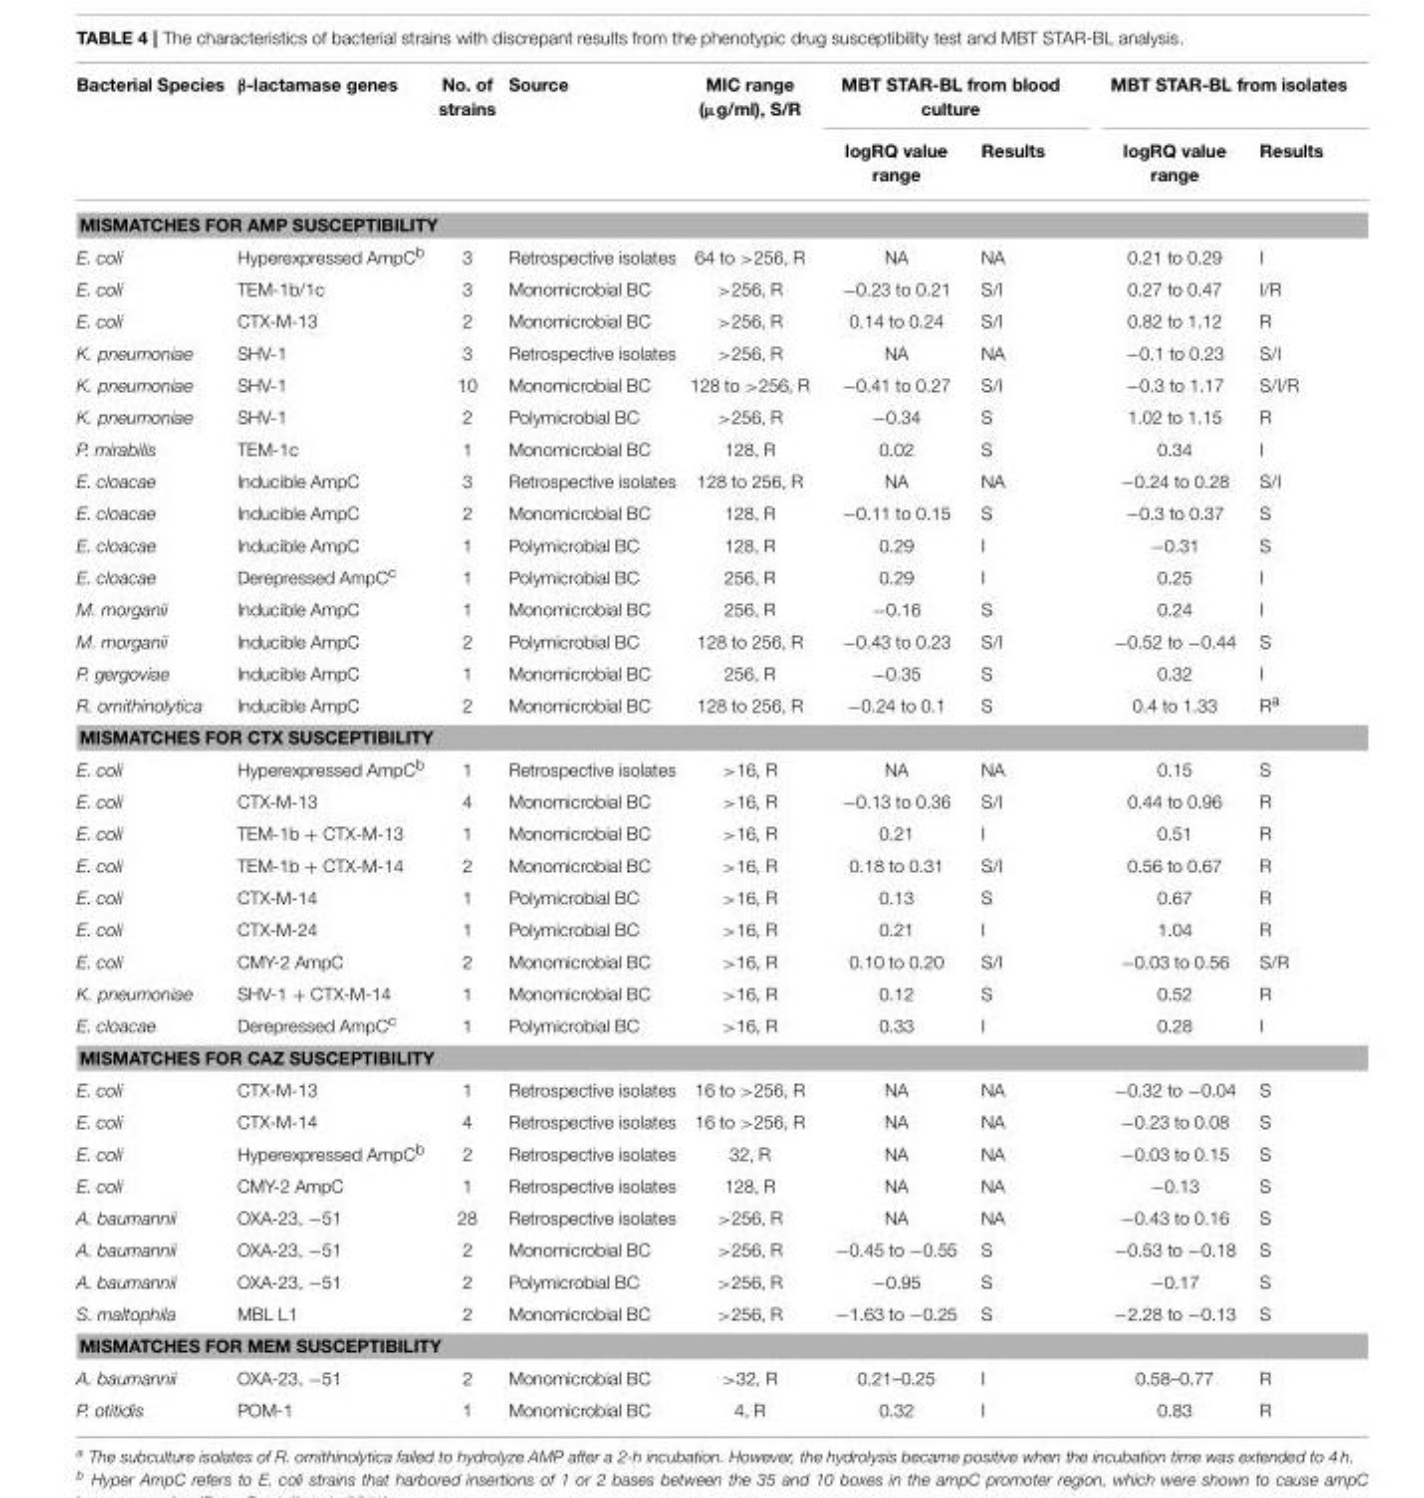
<table><thead><tr><td rowspan="2">Bacterial Species</td><td rowspan="2">β-lactamase genes</td><td rowspan="2">No. of strains</td><td rowspan="2">Source</td><td rowspan="2">MIC range (µg/ml), S/R</td><td colspan="2">MBT STAR-BL from blood culture</td><td colspan="2">MBT STAR-BL from isolates</td></tr><tr><td>logRQ value range</td><td>Results</td><td>logRQ value range</td><td>Results</td></tr></thead><tbody><tr><td colspan="9">MISMATCHES FOR AMP SUSCEPTIBILITY</td></tr><tr><td>E. coli</td><td>Hyperexpressed AmpC<sup>b</sup></td><td>3</td><td>Retrospective isolates</td><td>64 to &gt;256, R</td><td>NA</td><td>NA</td><td>0.21 to 0.29</td><td>I</td></tr><tr><td>E. coli</td><td>TEM-1b/1c</td><td>3</td><td>Monomicrobial BC</td><td>&gt;256, R</td><td>−0.23 to 0.21</td><td>S/I</td><td>0.27 to 0.47</td><td>I/R</td></tr><tr><td>E. coli</td><td>CTX-M-13</td><td>2</td><td>Monomicrobial BC</td><td>&gt;256, R</td><td>0.14 to 0.24</td><td>S/I</td><td>0.82 to 1.12</td><td>R</td></tr><tr><td>K. pneumoniae</td><td>SHV-1</td><td>3</td><td>Retrospective isolates</td><td>&gt;256, R</td><td>NA</td><td>NA</td><td>−0.1 to 0.23</td><td>S/I</td></tr><tr><td>K. pneumoniae</td><td>SHV-1</td><td>10</td><td>Monomicrobial BC</td><td>128 to &gt;256, R</td><td>−0.41 to 0.27</td><td>S/I</td><td>−0.3 to 1.17</td><td>S/I/R</td></tr><tr><td>K. pneumoniae</td><td>SHV-1</td><td>2</td><td>Polymicrobial BC</td><td>&gt;256, R</td><td>−0.34</td><td>S</td><td>1.02 to 1.15</td><td>R</td></tr><tr><td>P. mirabilis</td><td>TEM-1c</td><td>1</td><td>Monomicrobial BC</td><td>128, R</td><td>0.02</td><td>S</td><td>0.34</td><td>I</td></tr><tr><td>E. cloacae</td><td>Inducible AmpC</td><td>3</td><td>Retrospective isolates</td><td>128 to 256, R</td><td>NA</td><td>NA</td><td>−0.24 to 0.28</td><td>S/I</td></tr><tr><td>E. cloacae</td><td>Inducible AmpC</td><td>2</td><td>Monomicrobial BC</td><td>128, R</td><td>−0.11 to 0.15</td><td>S</td><td>−0.3 to 0.37</td><td>S</td></tr><tr><td>E. cloacae</td><td>Inducible AmpC</td><td>1</td><td>Polymicrobial BC</td><td>128, R</td><td>0.29</td><td>I</td><td>−0.31</td><td>S</td></tr><tr><td>E. cloacae</td><td>Derepressed AmpC<sup>c</sup></td><td>1</td><td>Polymicrobial BC</td><td>256, R</td><td>0.29</td><td>I</td><td>0.25</td><td>I</td></tr><tr><td>M. morganii</td><td>Inducible AmpC</td><td>1</td><td>Monomicrobial BC</td><td>256, R</td><td>−0.16</td><td>S</td><td>0.24</td><td>I</td></tr><tr><td>M. morganii</td><td>Inducible AmpC</td><td>2</td><td>Polymicrobial BC</td><td>128 to 256, R</td><td>−0.43 to 0.23</td><td>S/I</td><td>−0.52 to −0.44</td><td>S</td></tr><tr><td>P. gergoviae</td><td>Inducible AmpC</td><td>1</td><td>Monomicrobial BC</td><td>256, R</td><td>−0.35</td><td>S</td><td>0.32</td><td>I</td></tr><tr><td>R. ornithinolytica</td><td>Inducible AmpC</td><td>2</td><td>Monomicrobial BC</td><td>128 to 256, R</td><td>−0.24 to 0.1</td><td>S</td><td>0.4 to 1.33</td><td>R<sup>a</sup></td></tr><tr><td colspan="9">MISMATCHES FOR CTX SUSCEPTIBILITY</td></tr><tr><td>E. coli</td><td>Hyperexpressed AmpC<sup>b</sup></td><td>1</td><td>Retrospective isolates</td><td>&gt;16, R</td><td>NA</td><td>NA</td><td>0.15</td><td>S</td></tr><tr><td>E. coli</td><td>CTX-M-13</td><td>4</td><td>Monomicrobial BC</td><td>&gt;16, R</td><td>−0.13 to 0.36</td><td>S/I</td><td>0.44 to 0.96</td><td>R</td></tr><tr><td>E. coli</td><td>TEM-1b + CTX-M-13</td><td>1</td><td>Monomicrobial BC</td><td>&gt;16, R</td><td>0.21</td><td>I</td><td>0.51</td><td>R</td></tr><tr><td>E. coli</td><td>TEM-1b + CTX-M-14</td><td>2</td><td>Monomicrobial BC</td><td>&gt;16, R</td><td>0.18 to 0.31</td><td>S/I</td><td>0.56 to 0.67</td><td>R</td></tr><tr><td>E. coli</td><td>CTX-M-14</td><td>1</td><td>Polymicrobial BC</td><td>&gt;16, R</td><td>0.13</td><td>S</td><td>0.67</td><td>R</td></tr><tr><td>E. coli</td><td>CTX-M-24</td><td>1</td><td>Polymicrobial BC</td><td>&gt;16, R</td><td>0.21</td><td>I</td><td>1.04</td><td>R</td></tr><tr><td>E. coli</td><td>CMY-2 AmpC</td><td>2</td><td>Monomicrobial BC</td><td>&gt;16, R</td><td>0.10 to 0.20</td><td>S/I</td><td>−0.03 to 0.56</td><td>S/R</td></tr><tr><td>K. pneumoniae</td><td>SHV-1 + CTX-M-14</td><td>1</td><td>Monomicrobial BC</td><td>&gt;16, R</td><td>0.12</td><td>S</td><td>0.52</td><td>R</td></tr><tr><td>E. cloacae</td><td>Derepressed AmpC<sup>c</sup></td><td>1</td><td>Polymicrobial BC</td><td>&gt;16, R</td><td>0.33</td><td>I</td><td>0.28</td><td>I</td></tr><tr><td colspan="9">MISMATCHES FOR CAZ SUSCEPTIBILITY</td></tr><tr><td>E. coli</td><td>CTX-M-13</td><td>1</td><td>Retrospective isolates</td><td>16 to &gt;256, R</td><td>NA</td><td>NA</td><td>−0.32 to −0.04</td><td>S</td></tr><tr><td>E. coli</td><td>CTX-M-14</td><td>4</td><td>Retrospective isolates</td><td>16 to &gt;256, R</td><td>NA</td><td>NA</td><td>−0.23 to 0.08</td><td>S</td></tr><tr><td>E. coli</td><td>Hyperexpressed AmpC<sup>b</sup></td><td>2</td><td>Retrospective isolates</td><td>32, R</td><td>NA</td><td>NA</td><td>−0.03 to 0.15</td><td>S</td></tr><tr><td>E. coli</td><td>CMY-2 AmpC</td><td>1</td><td>Retrospective isolates</td><td>128, R</td><td>NA</td><td>NA</td><td>−0.13</td><td>S</td></tr><tr><td>A. baumannii</td><td>OXA-23, −51</td><td>28</td><td>Retrospective isolates</td><td>&gt;256, R</td><td>NA</td><td>NA</td><td>−0.43 to 0.16</td><td>S</td></tr><tr><td>A. baumannii</td><td>OXA-23, −51</td><td>2</td><td>Monomicrobial BC</td><td>&gt;256, R</td><td>−0.45 to −0.55</td><td>S</td><td>−0.53 to −0.18</td><td>S</td></tr><tr><td>A. baumannii</td><td>OXA-23, −51</td><td>2</td><td>Polymicrobial BC</td><td>&gt;256, R</td><td>−0.95</td><td>S</td><td>−0.17</td><td>S</td></tr><tr><td>S. maltophila</td><td>MBL L1</td><td>2</td><td>Monomicrobial BC</td><td>&gt;256, R</td><td>−1.63 to −0.25</td><td>S</td><td>−2.28 to −0.13</td><td>S</td></tr><tr><td colspan="9">MISMATCHES FOR MEM SUSCEPTIBILITY</td></tr><tr><td>A. baumannii</td><td>OXA-23, −51</td><td>2</td><td>Monomicrobial BC</td><td>&gt;32, R</td><td>0.21–0.25</td><td>I</td><td>0.58–0.77</td><td>R</td></tr><tr><td>P. otitidis</td><td>POM-1</td><td>1</td><td>Monomicrobial BC</td><td>4, R</td><td>0.32</td><td>I</td><td>0.83</td><td>R</td></tr></tbody></table>